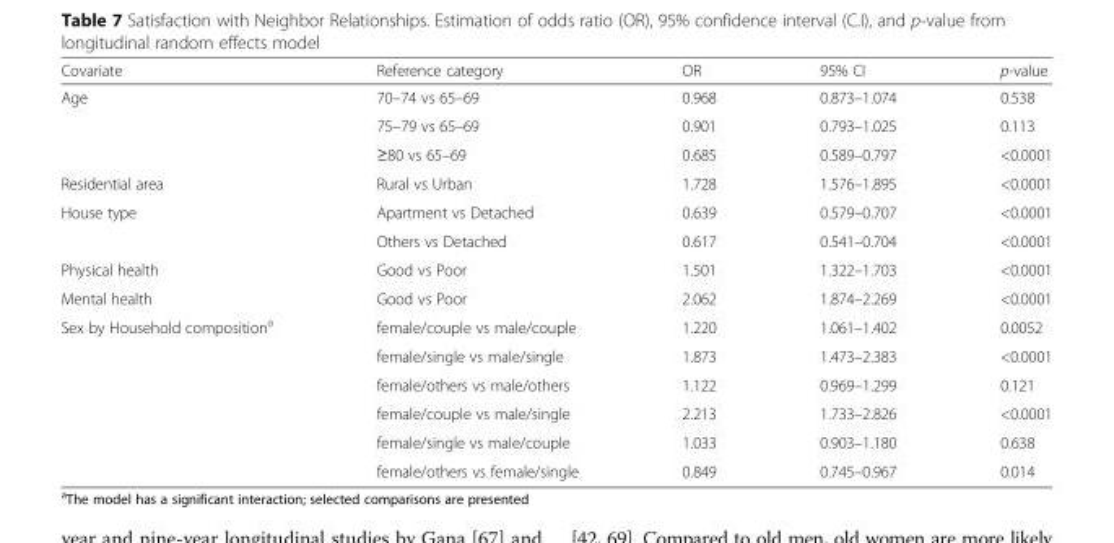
<table><thead><tr><td>Covariate</td><td>Reference category</td><td>OR</td><td>95% CI</td><td>p-value</td></tr></thead><tbody><tr><td rowspan="3">Age</td><td>70–74 vs 65–69</td><td>0.968</td><td>0.873–1.074</td><td>0.538</td></tr><tr><td>75–79 vs 65–69</td><td>0.901</td><td>0.793–1.025</td><td>0.113</td></tr><tr><td>≥80 vs 65–69</td><td>0.685</td><td>0.589–0.797</td><td>&lt;0.0001</td></tr><tr><td>Residential area</td><td>Rural vs Urban</td><td>1.728</td><td>1.576–1.895</td><td>&lt;0.0001</td></tr><tr><td rowspan="2">House type</td><td>Apartment vs Detached</td><td>0.639</td><td>0.579–0.707</td><td>&lt;0.0001</td></tr><tr><td>Others vs Detached</td><td>0.617</td><td>0.541–0.704</td><td>&lt;0.0001</td></tr><tr><td>Physical health</td><td>Good vs Poor</td><td>1.501</td><td>1.322–1.703</td><td>&lt;0.0001</td></tr><tr><td>Mental health</td><td>Good vs Poor</td><td>2.062</td><td>1.874–2.269</td><td>&lt;0.0001</td></tr><tr><td rowspan="6">Sex by Household composition<sup>a</sup></td><td>female/couple vs male/couple</td><td>1.220</td><td>1.061–1.402</td><td>0.0052</td></tr><tr><td>female/single vs male/single</td><td>1.873</td><td>1.473–2.383</td><td>&lt;0.0001</td></tr><tr><td>female/others vs male/others</td><td>1.122</td><td>0.969–1.299</td><td>0.121</td></tr><tr><td>female/couple vs male/single</td><td>2.213</td><td>1.733–2.826</td><td>&lt;0.0001</td></tr><tr><td>female/single vs male/couple</td><td>1.033</td><td>0.903–1.180</td><td>0.638</td></tr><tr><td>female/others vs female/single</td><td>0.849</td><td>0.745–0.967</td><td>0.014</td></tr></tbody></table>